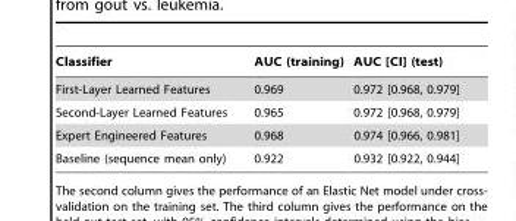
<table><thead><tr><td>Classifier</td><td>AUC (training)</td><td>AUC [CI] (test)</td></tr></thead><tbody><tr><td>First-Layer Learned Features</td><td>0.969</td><td>0.972 [0.968, 0.979]</td></tr><tr><td>Second-Layer Learned Features</td><td>0.965</td><td>0.972 [0.968, 0.979]</td></tr><tr><td>Expert Engineered Features</td><td>0.968</td><td>0.974 [0.966, 0.981]</td></tr><tr><td>Baseline (sequence mean only)</td><td>0.922</td><td>0.932 [0.922, 0.944]</td></tr></tbody></table>